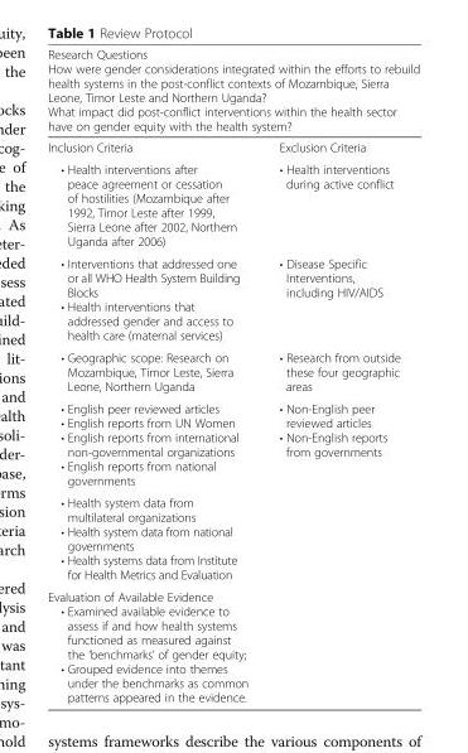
<table><thead><tr><td colspan="2">Research Questions How were gender considerations integrated within the efforts to rebuild health systems in the post-conflict contexts of Mozambique, Sierra Leone, Timor Leste and Northern Uganda? What impact did post-conflict interventions within the health sector have on gender equity with the health system?</td></tr><tr><td>Inclusion Criteria</td><td>Exclusion Criteria</td></tr></thead><tbody><tr><td>• Health interventions after peace agreement or cessation of hostilities (Mozambique after 1992, Timor Leste after 1999, Sierra Leone after 2002, Northern Uganda after 2006)</td><td>• Health interventions during active conflict</td></tr><tr><td>• Interventions that addressed one or all WHO Health System Building Blocks • Health interventions that addressed gender and access to health care (maternal services)</td><td>• Disease Specific Interventions, including HIV/AIDS</td></tr><tr><td>• Geographic scope: Research on Mozambique, Timor Leste, Sierra Leone, Northern Uganda</td><td>• Research from outside these four geographic areas</td></tr><tr><td>• English peer reviewed articles • English reports from UN Women • English reports from international non-governmental organizations • English reports from national governments</td><td>• Non-English peer reviewed articles • Non-English reports from governments</td></tr><tr><td colspan="2">• Health system data from multilateral organizations • Health system data from national governments • Health systems data from Institute for Health Metrics and Evaluation</td></tr><tr><td>Evaluation of Available Evidence • Examined available evidence to assess if and how health systems functioned as measured against the ‘benchmarks’ of gender equity; • Grouped evidence into themes under the benchmarks as common patterns appeared in the evidence.</td><td></td></tr></tbody></table>